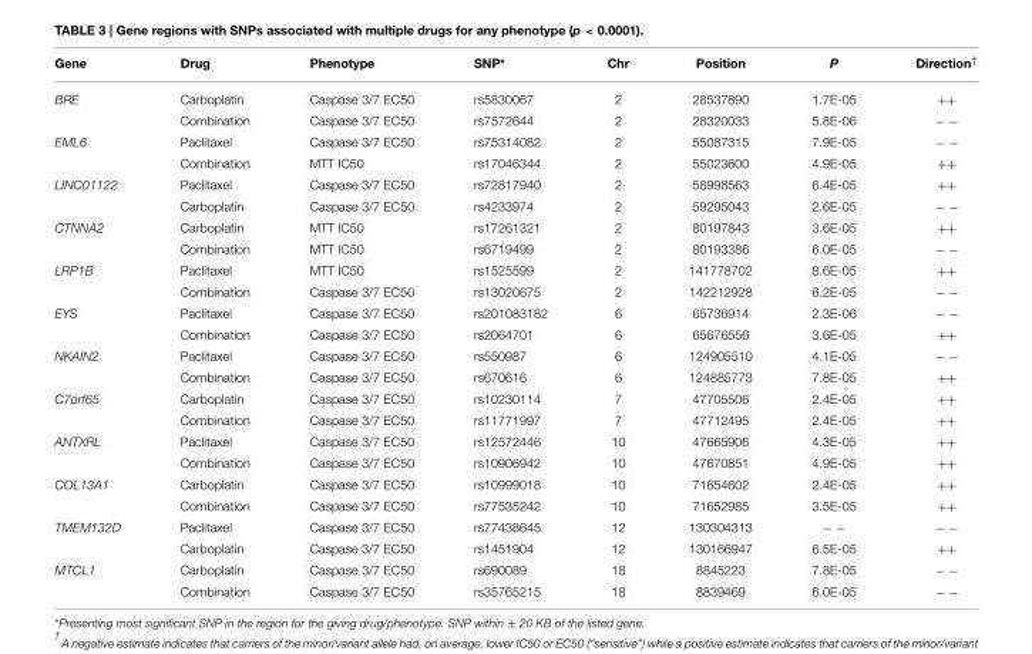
<table><thead><tr><td>Gene</td><td>Drug</td><td>Phenotype</td><td>SNP*</td><td>Chr</td><td>Position</td><td>P</td><td>Direction<sup>†</sup></td></tr></thead><tbody><tr><td rowspan="2">BRE</td><td>Carboplatin</td><td>Caspase 3/7 EC50</td><td>rs5830067</td><td>2</td><td>28537890</td><td>1.7E-05</td><td>++</td></tr><tr><td>Combination</td><td>Caspase 3/7 EC50</td><td>rs7572644</td><td>2</td><td>28320033</td><td>5.8E-06</td><td>− −</td></tr><tr><td rowspan="2">EML6</td><td>Paclitaxel</td><td>Caspase 3/7 EC50</td><td>rs75314082</td><td>2</td><td>55087315</td><td>7.9E-05</td><td>− −</td></tr><tr><td>Combination</td><td>MTT IC50</td><td>rs17046344</td><td>2</td><td>55023600</td><td>4.9E-05</td><td>++</td></tr><tr><td rowspan="2">LINC01122</td><td>Paclitaxel</td><td>Caspase 3/7 EC50</td><td>rs72817940</td><td>2</td><td>58998563</td><td>6.4E-05</td><td>++</td></tr><tr><td>Carboplatin</td><td>Caspase 3/7 EC50</td><td>rs4233974</td><td>2</td><td>59295043</td><td>2.6E-05</td><td>− −</td></tr><tr><td rowspan="2">CTNNA2</td><td>Carboplatin</td><td>MTT IC50</td><td>rs17261321</td><td>2</td><td>80197843</td><td>3.6E-05</td><td>++</td></tr><tr><td>Combination</td><td>MTT IC50</td><td>rs6719499</td><td>2</td><td>80193386</td><td>6.0E-05</td><td>− −</td></tr><tr><td rowspan="2">LRP1B</td><td>Paclitaxel</td><td>MTT IC50</td><td>rs1525599</td><td>2</td><td>141778702</td><td>8.6E-05</td><td>++</td></tr><tr><td>Combination</td><td>Caspase 3/7 EC50</td><td>rs13020675</td><td>2</td><td>142212928</td><td>6.2E-05</td><td>− −</td></tr><tr><td rowspan="2">EYS</td><td>Paclitaxel</td><td>Caspase 3/7 EC50</td><td>rs201083182</td><td>6</td><td>65736914</td><td>2.3E-06</td><td>− −</td></tr><tr><td>Combination</td><td>Caspase 3/7 EC50</td><td>rs2064701</td><td>6</td><td>65676556</td><td>3.6E-05</td><td>++</td></tr><tr><td rowspan="2">NKAIN2</td><td>Paclitaxel</td><td>Caspase 3/7 EC50</td><td>rs550987</td><td>6</td><td>124905510</td><td>4.1E-05</td><td>− −</td></tr><tr><td>Combination</td><td>Caspase 3/7 EC50</td><td>rs670616</td><td>6</td><td>124885773</td><td>7.8E-05</td><td>++</td></tr><tr><td rowspan="2">C7orf65</td><td>Carboplatin</td><td>Caspase 3/7 EC50</td><td>rs10230114</td><td>7</td><td>47705506</td><td>2.4E-05</td><td>++</td></tr><tr><td>Combination</td><td>Caspase 3/7 EC50</td><td>rs11771997</td><td>7</td><td>47712495</td><td>2.4E-05</td><td>++</td></tr><tr><td rowspan="2">ANTXRL</td><td>Paclitaxel</td><td>Caspase 3/7 EC50</td><td>rs12572446</td><td>10</td><td>47665906</td><td>4.3E-05</td><td>++</td></tr><tr><td>Combination</td><td>Caspase 3/7 EC50</td><td>rs10906942</td><td>10</td><td>47670851</td><td>4.9E-05</td><td>++</td></tr><tr><td rowspan="2">COL13A1</td><td>Carboplatin</td><td>Caspase 3/7 EC50</td><td>rs10999018</td><td>10</td><td>71654602</td><td>2.4E-05</td><td>++</td></tr><tr><td>Combination</td><td>Caspase 3/7 EC50</td><td>rs77535242</td><td>10</td><td>71652985</td><td>3.5E-05</td><td>++</td></tr><tr><td rowspan="2">TMEM132D</td><td>Paclitaxel</td><td>Caspase 3/7 EC50</td><td>rs77438645</td><td>12</td><td>130304313</td><td>− −</td><td>− −</td></tr><tr><td>Carboplatin</td><td>Caspase 3/7 EC50</td><td>rs1451904</td><td>12</td><td>130166947</td><td>6.5E-05</td><td>++</td></tr><tr><td rowspan="2">MTCL1</td><td>Carboplatin</td><td>Caspase 3/7 EC50</td><td>rs690089</td><td>18</td><td>8845223</td><td>7.8E-05</td><td>− −</td></tr><tr><td>Combination</td><td>Caspase 3/7 EC50</td><td>rs35765215</td><td>18</td><td>8839469</td><td>6.0E-05</td><td>− −</td></tr></tbody></table>